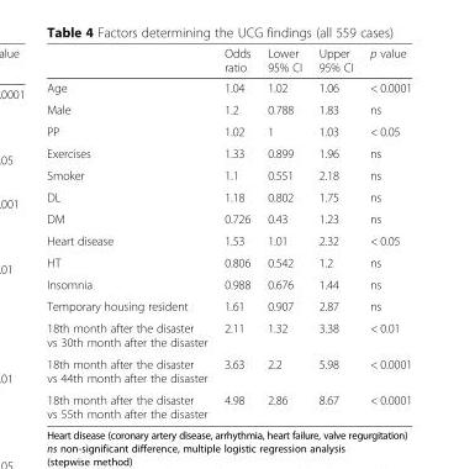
<table><thead><tr><td></td><td>Odds ratio</td><td>Lower 95% CI</td><td>Upper 95% CI</td><td>p value</td></tr></thead><tbody><tr><td>Age</td><td>1.04</td><td>1.02</td><td>1.06</td><td>&lt; 0.0001</td></tr><tr><td>Male</td><td>1.2</td><td>0.788</td><td>1.83</td><td>ns</td></tr><tr><td>PP</td><td>1.02</td><td>1</td><td>1.03</td><td>&lt; 0.05</td></tr><tr><td>Exercises</td><td>1.33</td><td>0.899</td><td>1.96</td><td>ns</td></tr><tr><td>Smoker</td><td>1.1</td><td>0.551</td><td>2.18</td><td>ns</td></tr><tr><td>DL</td><td>1.18</td><td>0.802</td><td>1.75</td><td>ns</td></tr><tr><td>DM</td><td>0.726</td><td>0.43</td><td>1.23</td><td>ns</td></tr><tr><td>Heart disease</td><td>1.53</td><td>1.01</td><td>2.32</td><td>&lt; 0.05</td></tr><tr><td>HT</td><td>0.806</td><td>0.542</td><td>1.2</td><td>ns</td></tr><tr><td>Insomnia</td><td>0.988</td><td>0.676</td><td>1.44</td><td>ns</td></tr><tr><td>Temporary housing resident</td><td>1.61</td><td>0.907</td><td>2.87</td><td>ns</td></tr><tr><td>18th month after the disaster vs 30th month after the disaster</td><td>2.11</td><td>1.32</td><td>3.38</td><td>&lt; 0.01</td></tr><tr><td>18th month after the disaster vs 44th month after the disaster</td><td>3.63</td><td>2.2</td><td>5.98</td><td>&lt; 0.0001</td></tr><tr><td>18th month after the disaster vs 55th month after the disaster</td><td>4.98</td><td>2.86</td><td>8.67</td><td>&lt; 0.0001</td></tr></tbody></table>